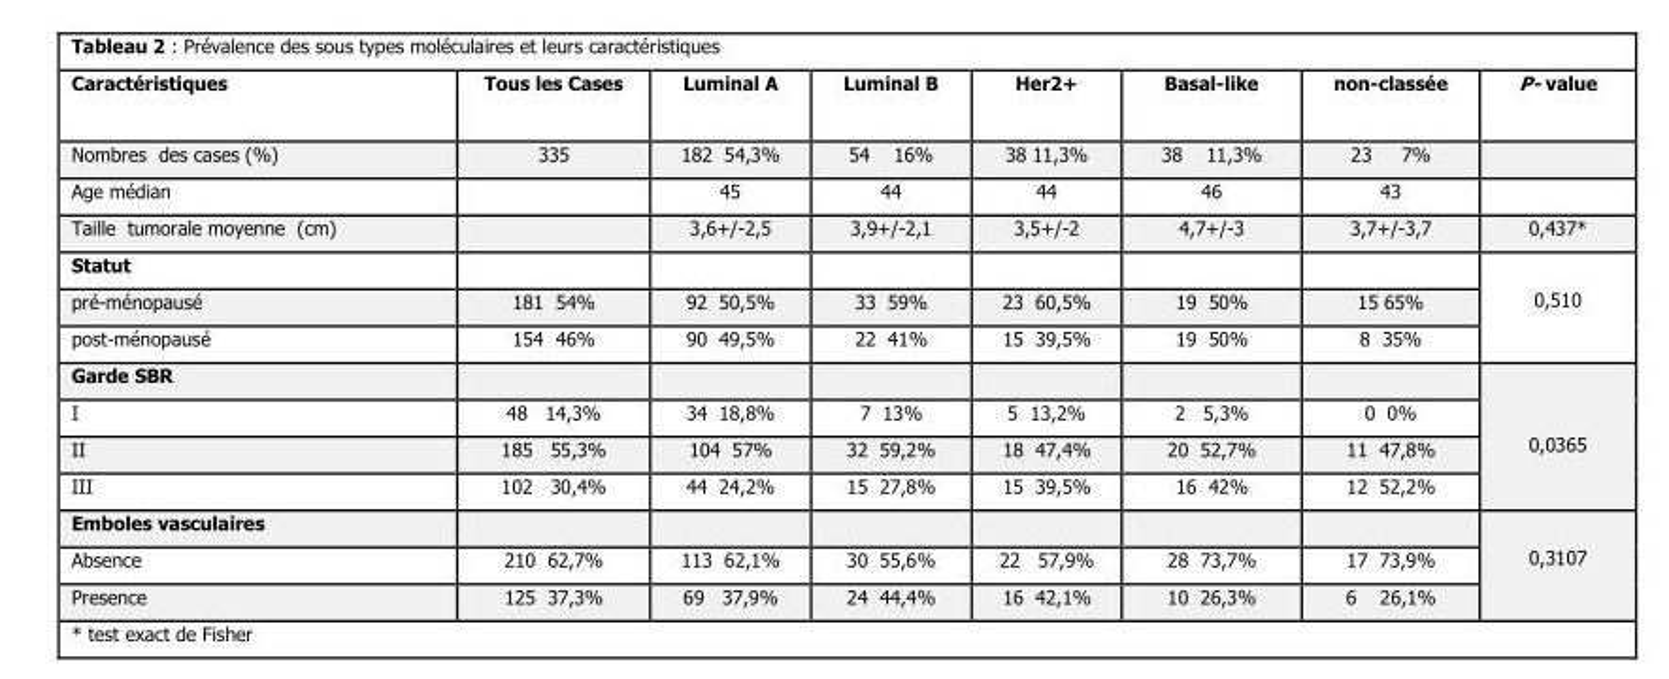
<table><thead><tr><td>Caractéristiques</td><td>Tous les Cases</td><td>Luminal A</td><td>Luminal B</td><td>Her2+</td><td>Basal-like</td><td>non-classée</td><td>P- value</td></tr></thead><tbody><tr><td>Nombres des cases (%)</td><td>335</td><td>182 54,3%</td><td>54 16%</td><td>38 11,3%</td><td>38 11,3%</td><td>23 7%</td><td></td></tr><tr><td>Age médian</td><td></td><td>45</td><td>44</td><td>44</td><td>46</td><td>43</td><td></td></tr><tr><td>Taille tumorale moyenne (cm)</td><td></td><td>3,6+/-2,5</td><td>3,9+/-2,1</td><td>3,5+/-2</td><td>4,7+/-3</td><td>3,7+/-3,7</td><td>0,437*</td></tr><tr><td colspan="7">Statut</td><td rowspan="3">0,510</td></tr><tr><td>pré-ménopausé</td><td>181 54%</td><td>92 50,5%</td><td>33 59%</td><td>23 60,5%</td><td>19 50%</td><td>15 65%</td></tr><tr><td>post-ménopausé</td><td>154 46%</td><td>90 49,5%</td><td>22 41%</td><td>15 39,5%</td><td>19 50%</td><td>8 35%</td></tr><tr><td colspan="7">Garde SBR</td><td rowspan="4">0,0365</td></tr><tr><td>I</td><td>48 14,3%</td><td>34 18,8%</td><td>7 13%</td><td>5 13,2%</td><td>2 5,3%</td><td>0 0%</td></tr><tr><td>II</td><td>185 55,3%</td><td>104 57%</td><td>32 59,2%</td><td>18 47,4%</td><td>20 52,7%</td><td>11 47,8%</td></tr><tr><td>III</td><td>102 30,4%</td><td>44 24,2%</td><td>15 27,8%</td><td>15 39,5%</td><td>16 42%</td><td>12 52,2%</td></tr><tr><td colspan="7">Emboles vasculaires</td><td rowspan="3">0,3107</td></tr><tr><td>Absence</td><td>210 62,7%</td><td>113 62,1%</td><td>30 55,6%</td><td>22 57,9%</td><td>28 73,7%</td><td>17 73,9%</td></tr><tr><td>Presence</td><td>125 37,3%</td><td>69 37,9%</td><td>24 44,4%</td><td>16 42,1%</td><td>10 26,3%</td><td>6 26,1%</td></tr></tbody></table>